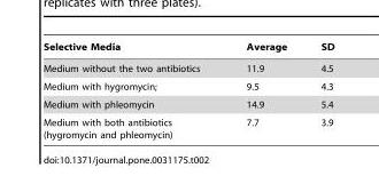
<table><thead><tr><td>Selective Media</td><td>Average</td><td>SD</td></tr></thead><tbody><tr><td>Medium without the two antibiotics</td><td>11.9</td><td>4.5</td></tr><tr><td>Medium with hygromycin;</td><td>9.5</td><td>4.3</td></tr><tr><td>Medium with phleomycin</td><td>14.9</td><td>5.4</td></tr><tr><td>Medium with both antibiotics (hygromycin and phleomycin)</td><td>7.7</td><td>3.9</td></tr></tbody></table>